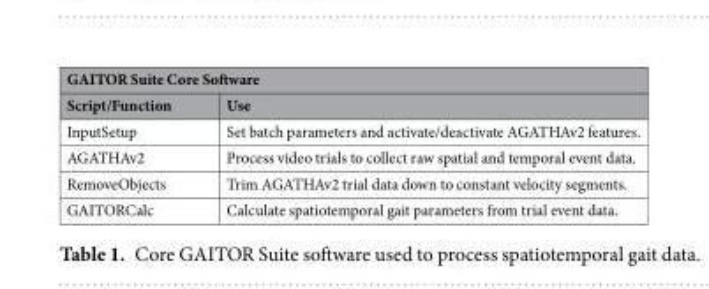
<table><thead><tr><td colspan="2">GAITOR Suite Core Software</td></tr><tr><td>Script/Function</td><td>Use</td></tr></thead><tbody><tr><td>InputSetup</td><td>Set batch parameters and activate/deactivate AGATHAv2 features.</td></tr><tr><td>AGATHAv2</td><td>Process video trials to collect raw spatial and temporal event data.</td></tr><tr><td>RemoveObjects</td><td>Trim AGATHAv2 trial data down to constant velocity segments.</td></tr><tr><td>GAITORCalc</td><td>Calculate spatiotemporal gait parameters from trial event data.</td></tr></tbody></table>